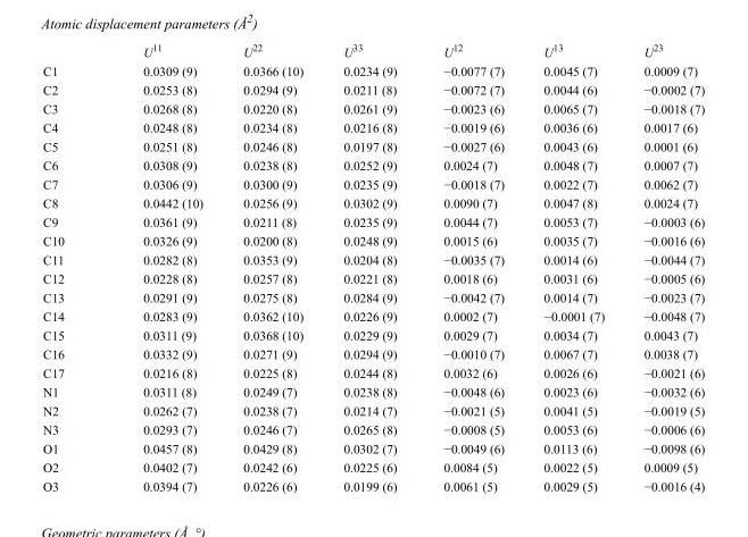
<table><thead><tr><td></td><td>U<sup>11</sup></td><td>U<sup>22</sup></td><td>U<sup>33</sup></td><td>U<sup>12</sup></td><td>U<sup>13</sup></td><td>U<sup>23</sup></td></tr></thead><tbody><tr><td>C1</td><td>0.0309 (9)</td><td>0.0366 (10)</td><td>0.0234 (9)</td><td>−0.0077 (7)</td><td>0.0045 (7)</td><td>0.0009 (7)</td></tr><tr><td>C2</td><td>0.0253 (8)</td><td>0.0294 (9)</td><td>0.0211 (8)</td><td>−0.0072 (7)</td><td>0.0044 (6)</td><td>−0.0002 (7)</td></tr><tr><td>C3</td><td>0.0268 (8)</td><td>0.0220 (8)</td><td>0.0261 (9)</td><td>−0.0023 (6)</td><td>0.0065 (7)</td><td>−0.0018 (7)</td></tr><tr><td>C4</td><td>0.0248 (8)</td><td>0.0234 (8)</td><td>0.0216 (8)</td><td>−0.0019 (6)</td><td>0.0036 (6)</td><td>0.0017 (6)</td></tr><tr><td>C5</td><td>0.0251 (8)</td><td>0.0246 (8)</td><td>0.0197 (8)</td><td>−0.0027 (6)</td><td>0.0043 (6)</td><td>0.0001 (6)</td></tr><tr><td>C6</td><td>0.0308 (9)</td><td>0.0238 (8)</td><td>0.0252 (9)</td><td>0.0024 (7)</td><td>0.0048 (7)</td><td>0.0007 (7)</td></tr><tr><td>C7</td><td>0.0306 (9)</td><td>0.0300 (9)</td><td>0.0235 (9)</td><td>−0.0018 (7)</td><td>0.0022 (7)</td><td>0.0062 (7)</td></tr><tr><td>C8</td><td>0.0442 (10)</td><td>0.0256 (9)</td><td>0.0302 (9)</td><td>0.0090 (7)</td><td>0.0047 (8)</td><td>0.0024 (7)</td></tr><tr><td>C9</td><td>0.0361 (9)</td><td>0.0211 (8)</td><td>0.0235 (9)</td><td>0.0044 (7)</td><td>0.0053 (7)</td><td>−0.0003 (6)</td></tr><tr><td>C10</td><td>0.0326 (9)</td><td>0.0200 (8)</td><td>0.0248 (9)</td><td>0.0015 (6)</td><td>0.0035 (7)</td><td>−0.0016 (6)</td></tr><tr><td>C11</td><td>0.0282 (8)</td><td>0.0353 (9)</td><td>0.0204 (8)</td><td>−0.0035 (7)</td><td>0.0014 (6)</td><td>−0.0044 (7)</td></tr><tr><td>C12</td><td>0.0228 (8)</td><td>0.0257 (8)</td><td>0.0221 (8)</td><td>0.0018 (6)</td><td>0.0031 (6)</td><td>−0.0005 (6)</td></tr><tr><td>C13</td><td>0.0291 (9)</td><td>0.0275 (8)</td><td>0.0284 (9)</td><td>−0.0042 (7)</td><td>0.0014 (7)</td><td>−0.0023 (7)</td></tr><tr><td>C14</td><td>0.0283 (9)</td><td>0.0362 (10)</td><td>0.0226 (9)</td><td>0.0002 (7)</td><td>−0.0001 (7)</td><td>−0.0048 (7)</td></tr><tr><td>C15</td><td>0.0311 (9)</td><td>0.0368 (10)</td><td>0.0229 (9)</td><td>0.0029 (7)</td><td>0.0034 (7)</td><td>0.0043 (7)</td></tr><tr><td>C16</td><td>0.0332 (9)</td><td>0.0271 (9)</td><td>0.0294 (9)</td><td>−0.0010 (7)</td><td>0.0067 (7)</td><td>0.0038 (7)</td></tr><tr><td>C17</td><td>0.0216 (8)</td><td>0.0225 (8)</td><td>0.0244 (8)</td><td>0.0032 (6)</td><td>0.0026 (6)</td><td>−0.0021 (6)</td></tr><tr><td>N1</td><td>0.0311 (8)</td><td>0.0249 (7)</td><td>0.0238 (8)</td><td>−0.0048 (6)</td><td>0.0023 (6)</td><td>−0.0032 (6)</td></tr><tr><td>N2</td><td>0.0262 (7)</td><td>0.0238 (7)</td><td>0.0214 (7)</td><td>−0.0021 (5)</td><td>0.0041 (5)</td><td>−0.0019 (5)</td></tr><tr><td>N3</td><td>0.0293 (7)</td><td>0.0246 (7)</td><td>0.0265 (8)</td><td>−0.0008 (5)</td><td>0.0053 (6)</td><td>−0.0006 (6)</td></tr><tr><td>O1</td><td>0.0457 (8)</td><td>0.0429 (8)</td><td>0.0302 (7)</td><td>−0.0049 (6)</td><td>0.0113 (6)</td><td>−0.0098 (6)</td></tr><tr><td>O2</td><td>0.0402 (7)</td><td>0.0242 (6)</td><td>0.0225 (6)</td><td>0.0084 (5)</td><td>0.0022 (5)</td><td>0.0009 (5)</td></tr><tr><td>O3</td><td>0.0394 (7)</td><td>0.0226 (6)</td><td>0.0199 (6)</td><td>0.0061 (5)</td><td>0.0029 (5)</td><td>−0.0016 (4)</td></tr></tbody></table>